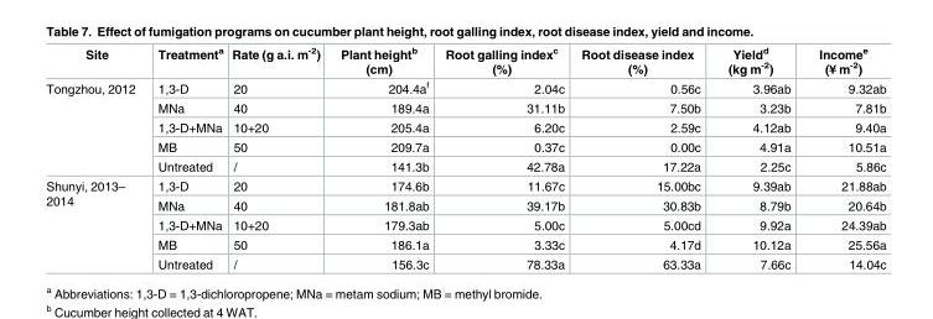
<table><thead><tr><td>Site</td><td>Treatment<sup>a</sup></td><td>Rate (g a.i. m<sup>-2</sup>)</td><td>Plant height<sup>b</sup> (cm)</td><td>Root galling index<sup>c</sup> (%)</td><td>Root disease index (%)</td><td>Yield<sup>d</sup> (kg m<sup>-2</sup>)</td><td>Income<sup>e</sup> (¥ m<sup>-2</sup>)</td></tr></thead><tbody><tr><td rowspan="5">Tongzhou, 2012</td><td>1,3-D</td><td>20</td><td>204.4a<sup>f</sup></td><td>2.04c</td><td>0.56c</td><td>3.96ab</td><td>9.32ab</td></tr><tr><td>MNa</td><td>40</td><td>189.4a</td><td>31.11b</td><td>7.50b</td><td>3.23b</td><td>7.81b</td></tr><tr><td>1,3-D+MNa</td><td>10+20</td><td>205.4a</td><td>6.20c</td><td>2.59c</td><td>4.12ab</td><td>9.40a</td></tr><tr><td>MB</td><td>50</td><td>209.7a</td><td>0.37c</td><td>0.00c</td><td>4.91a</td><td>10.51a</td></tr><tr><td>Untreated</td><td>/</td><td>141.3b</td><td>42.78a</td><td>17.22a</td><td>2.25c</td><td>5.86c</td></tr><tr><td rowspan="5">Shunyi, 2013– 2014</td><td>1,3-D</td><td>20</td><td>174.6b</td><td>11.67c</td><td>15.00bc</td><td>9.39ab</td><td>21.88ab</td></tr><tr><td>MNa</td><td>40</td><td>181.8ab</td><td>39.17b</td><td>30.83b</td><td>8.79b</td><td>20.64b</td></tr><tr><td>1,3-D+MNa</td><td>10+20</td><td>179.3ab</td><td>5.00c</td><td>5.00cd</td><td>9.92a</td><td>24.39ab</td></tr><tr><td>MB</td><td>50</td><td>186.1a</td><td>3.33c</td><td>4.17d</td><td>10.12a</td><td>25.56a</td></tr><tr><td>Untreated</td><td>/</td><td>156.3c</td><td>78.33a</td><td>63.33a</td><td>7.66c</td><td>14.04c</td></tr></tbody></table>